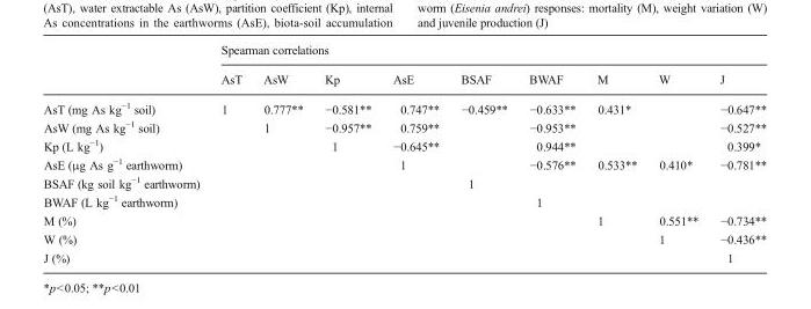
<table><thead><tr><td rowspan="2"></td><td colspan="9">Spearman correlations</td></tr><tr><td>AsT</td><td>AsW</td><td>Kp</td><td>AsE</td><td>BSAF</td><td>BWAF</td><td>M</td><td>W</td><td>J</td></tr></thead><tbody><tr><td>AsT (mg As kg<sup>−1</sup> soil)</td><td>1</td><td>0.777**</td><td>−0.581**</td><td>0.747**</td><td>−0.459**</td><td>−0.633**</td><td>0.431*</td><td></td><td>−0.647**</td></tr><tr><td>AsW (mg As kg<sup>−1</sup> soil)</td><td></td><td>1</td><td>−0.957**</td><td>0.759**</td><td></td><td>−0.953**</td><td></td><td></td><td>−0.527**</td></tr><tr><td>Kp (L kg<sup>−1</sup>)</td><td></td><td></td><td>1</td><td>−0.645**</td><td></td><td>0.944**</td><td></td><td></td><td>0.399*</td></tr><tr><td>AsE (μg As g<sup>−1</sup> earthworm)</td><td></td><td></td><td></td><td>1</td><td></td><td>−0.576**</td><td>0.533**</td><td>0.410*</td><td>−0.781**</td></tr><tr><td>BSAF (kg soil kg<sup>−1</sup> earthworm)</td><td></td><td></td><td></td><td></td><td>1</td><td></td><td></td><td></td><td></td></tr><tr><td>BWAF (L kg<sup>−1</sup> earthworm)</td><td></td><td></td><td></td><td></td><td></td><td>1</td><td></td><td></td><td></td></tr><tr><td>M (%)</td><td></td><td></td><td></td><td></td><td></td><td></td><td>1</td><td>0.551**</td><td>−0.734**</td></tr><tr><td>W (%)</td><td></td><td></td><td></td><td></td><td></td><td></td><td></td><td>1</td><td>−0.436**</td></tr><tr><td>J (%)</td><td></td><td></td><td></td><td></td><td></td><td></td><td></td><td></td><td>1</td></tr></tbody></table>